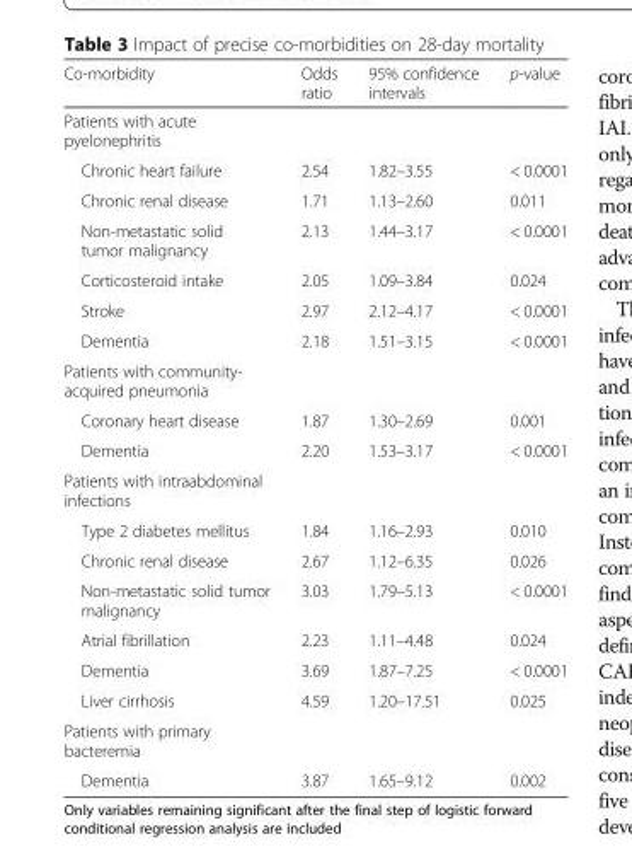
<table><thead><tr><td>Co-morbidity</td><td>Odds ratio</td><td>95% confidence intervals</td><td>p-value</td></tr></thead><tbody><tr><td colspan="4">Patients with acute pyelonephritis</td></tr><tr><td>Chronic heart failure</td><td>2.54</td><td>1.82–3.55</td><td>&lt; 0.0001</td></tr><tr><td>Chronic renal disease</td><td>1.71</td><td>1.13–2.60</td><td>0.011</td></tr><tr><td>Non-metastatic solid tumor malignancy</td><td>2.13</td><td>1.44–3.17</td><td>&lt; 0.0001</td></tr><tr><td>Corticosteroid intake</td><td>2.05</td><td>1.09–3.84</td><td>0.024</td></tr><tr><td>Stroke</td><td>2.97</td><td>2.12–4.17</td><td>&lt; 0.0001</td></tr><tr><td>Dementia</td><td>2.18</td><td>1.51–3.15</td><td>&lt; 0.0001</td></tr><tr><td colspan="4">Patients with community- acquired pneumonia</td></tr><tr><td>Coronary heart disease</td><td>1.87</td><td>1.30–2.69</td><td>0.001</td></tr><tr><td>Dementia</td><td>2.20</td><td>1.53–3.17</td><td>&lt; 0.0001</td></tr><tr><td colspan="4">Patients with intraabdominal infections</td></tr><tr><td>Type 2 diabetes mellitus</td><td>1.84</td><td>1.16–2.93</td><td>0.010</td></tr><tr><td>Chronic renal disease</td><td>2.67</td><td>1.12–6.35</td><td>0.026</td></tr><tr><td>Non-metastatic solid tumor malignancy</td><td>3.03</td><td>1.79–5.13</td><td>&lt; 0.0001</td></tr><tr><td>Atrial fibrillation</td><td>2.23</td><td>1.11–4.48</td><td>0.024</td></tr><tr><td>Dementia</td><td>3.69</td><td>1.87–7.25</td><td>&lt; 0.0001</td></tr><tr><td>Liver cirrhosis</td><td>4.59</td><td>1.20–17.51</td><td>0.025</td></tr><tr><td colspan="4">Patients with primary bacteremia</td></tr><tr><td>Dementia</td><td>3.87</td><td>1.65–9.12</td><td>0.002</td></tr></tbody></table>